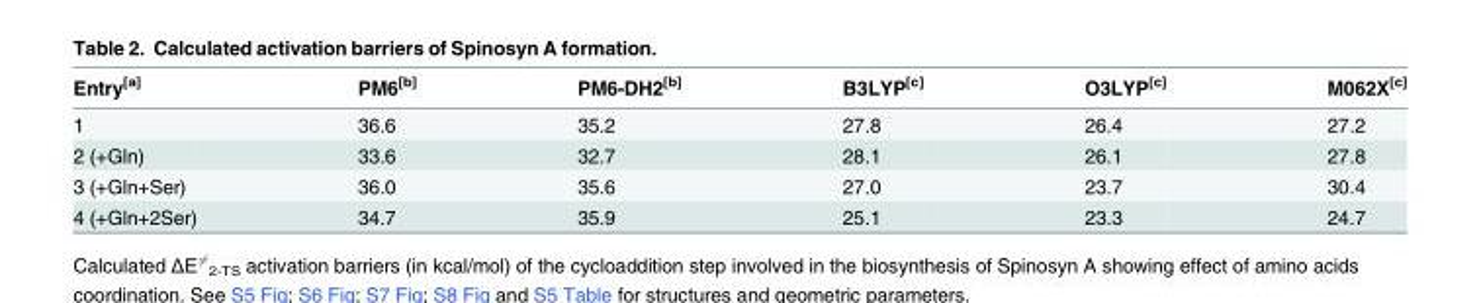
<table><thead><tr><td>Entry<sup>[a]</sup></td><td>PM6<sup>[b]</sup></td><td>PM6-DH2<sup>[b]</sup></td><td>B3LYP<sup>[c]</sup></td><td>O3LYP<sup>[c]</sup></td><td>M062X<sup>[c]</sup></td></tr></thead><tbody><tr><td>1</td><td>36.6</td><td>35.2</td><td>27.8</td><td>26.4</td><td>27.2</td></tr><tr><td>2 (+Gln)</td><td>33.6</td><td>32.7</td><td>28.1</td><td>26.1</td><td>27.8</td></tr><tr><td>3 (+Gln+Ser)</td><td>36.0</td><td>35.6</td><td>27.0</td><td>23.7</td><td>30.4</td></tr><tr><td>4 (+Gln+2Ser)</td><td>34.7</td><td>35.9</td><td>25.1</td><td>23.3</td><td>24.7</td></tr></tbody></table>